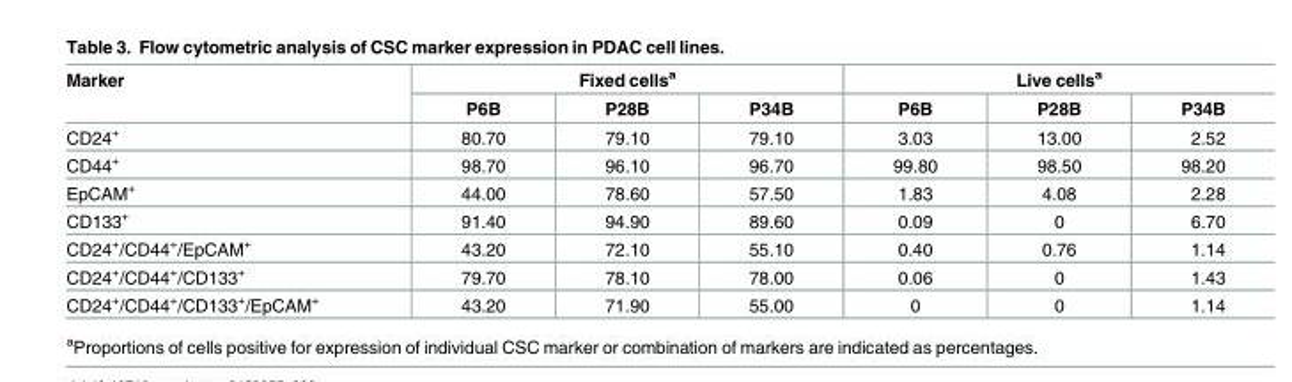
<table><thead><tr><td rowspan="2">Marker</td><td colspan="3">Fixed cells<sup>a</sup></td><td colspan="3">Live cells<sup>a</sup></td></tr><tr><td>P6B</td><td>P28B</td><td>P34B</td><td>P6B</td><td>P28B</td><td>P34B</td></tr></thead><tbody><tr><td>CD24<sup>+</sup></td><td>80.70</td><td>79.10</td><td>79.10</td><td>3.03</td><td>13.00</td><td>2.52</td></tr><tr><td>CD44<sup>+</sup></td><td>98.70</td><td>96.10</td><td>96.70</td><td>99.80</td><td>98.50</td><td>98.20</td></tr><tr><td>EpCAM<sup>+</sup></td><td>44.00</td><td>78.60</td><td>57.50</td><td>1.83</td><td>4.08</td><td>2.28</td></tr><tr><td>CD133<sup>+</sup></td><td>91.40</td><td>94.90</td><td>89.60</td><td>0.09</td><td>0</td><td>6.70</td></tr><tr><td>CD24<sup>+</sup>/CD44<sup>+</sup>/EpCAM<sup>+</sup></td><td>43.20</td><td>72.10</td><td>55.10</td><td>0.40</td><td>0.76</td><td>1.14</td></tr><tr><td>CD24<sup>+</sup>/CD44<sup>+</sup>/CD133<sup>+</sup></td><td>79.70</td><td>78.10</td><td>78.00</td><td>0.06</td><td>0</td><td>1.43</td></tr><tr><td>CD24<sup>+</sup>/CD44<sup>+</sup>/CD133<sup>+</sup>/EpCAM<sup>+</sup></td><td>43.20</td><td>71.90</td><td>55.00</td><td>0</td><td>0</td><td>1.14</td></tr></tbody></table>